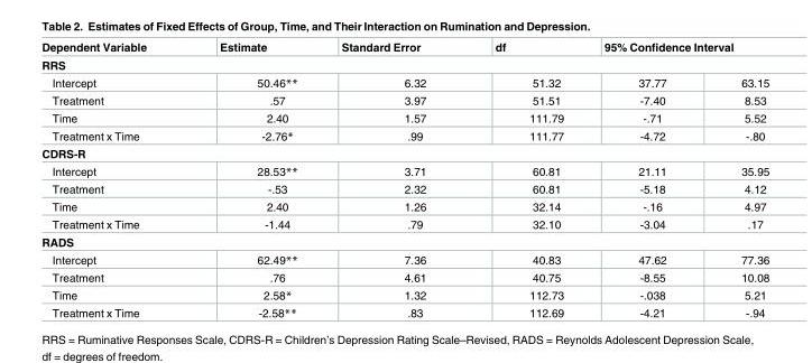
<table><thead><tr><td>Dependent Variable</td><td>Estimate</td><td>Standard Error</td><td>df</td><td colspan="2">95% Confidence Interval</td></tr><tr><td colspan="6">RRS</td></tr><tr><td>Intercept</td><td>50.46**</td><td>6.32</td><td>51.32</td><td>37.77</td><td>63.15</td></tr></thead><tbody><tr><td>Treatment</td><td>.57</td><td>3.97</td><td>51.51</td><td>-7.40</td><td>8.53</td></tr><tr><td>Time</td><td>2.40</td><td>1.57</td><td>111.79</td><td>-.71</td><td>5.52</td></tr><tr><td>Treatment x Time</td><td>-2.76*</td><td>.99</td><td>111.77</td><td>-4.72</td><td>-.80</td></tr><tr><td colspan="6">CDRS-R</td></tr><tr><td>Intercept</td><td>28.53**</td><td>3.71</td><td>60.81</td><td>21.11</td><td>35.95</td></tr><tr><td>Treatment</td><td>-.53</td><td>2.32</td><td>60.81</td><td>-5.18</td><td>4.12</td></tr><tr><td>Time</td><td>2.40</td><td>1.26</td><td>32.14</td><td>-.16</td><td>4.97</td></tr><tr><td>Treatment x Time</td><td>-1.44</td><td>.79</td><td>32.10</td><td>-3.04</td><td>.17</td></tr><tr><td colspan="6">RADS</td></tr><tr><td>Intercept</td><td>62.49**</td><td>7.36</td><td>40.83</td><td>47.62</td><td>77.36</td></tr><tr><td>Treatment</td><td>.76</td><td>4.61</td><td>40.75</td><td>-8.55</td><td>10.08</td></tr><tr><td>Time</td><td>2.58*</td><td>1.32</td><td>112.73</td><td>-.038</td><td>5.21</td></tr><tr><td>Treatment x Time</td><td>-2.58**</td><td>.83</td><td>112.69</td><td>-4.21</td><td>-.94</td></tr></tbody></table>